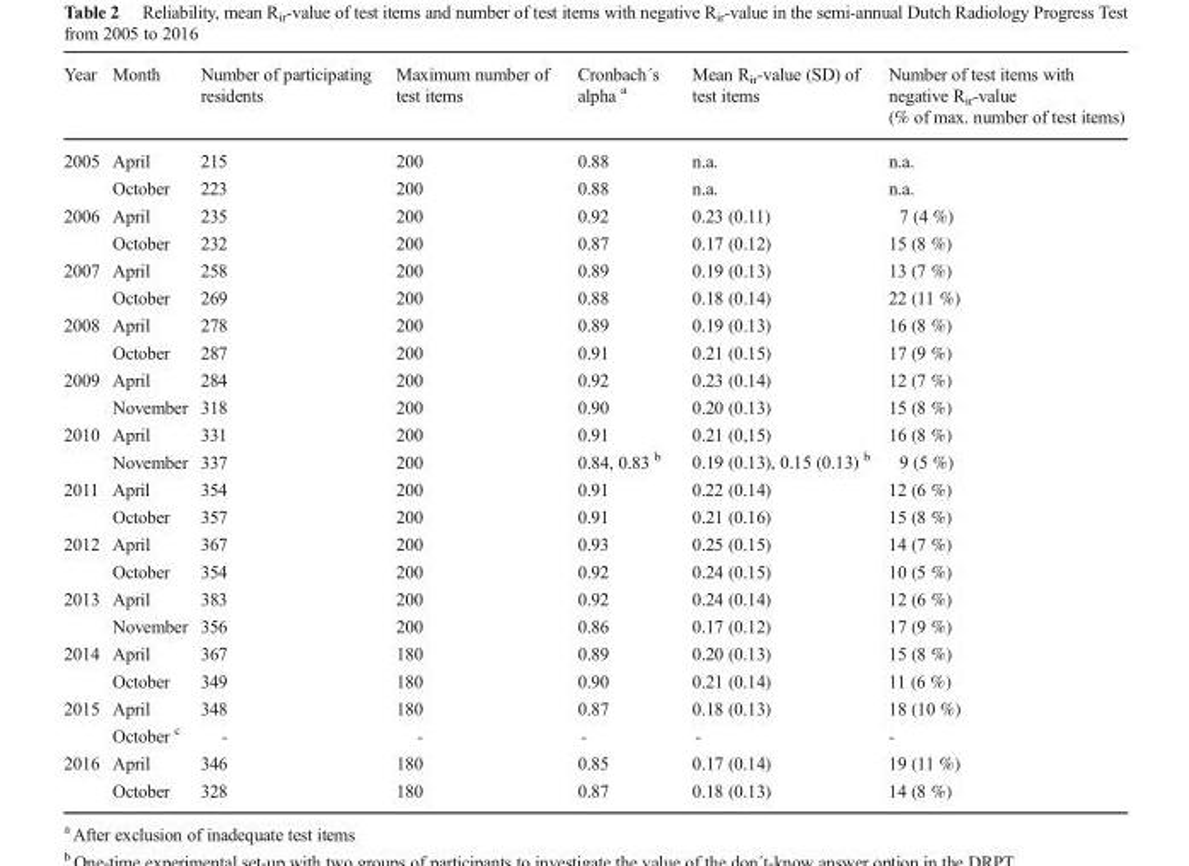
<table><thead><tr><td>Year</td><td>Month</td><td>Number of participating residents</td><td>Maximum number of test items</td><td>Cronbach´s alpha <sup>a</sup></td><td>Mean R<sub>ir</sub>-value (SD) of test items</td><td>Number of test items with negative R<sub>ir</sub>-value (% of max. number of test items)</td></tr></thead><tbody><tr><td rowspan="2">2005</td><td>April</td><td>215</td><td>200</td><td>0.88</td><td>n.a.</td><td>n.a.</td></tr><tr><td>October</td><td>223</td><td>200</td><td>0.88</td><td>n.a.</td><td>n.a.</td></tr><tr><td rowspan="2">2006</td><td>April</td><td>235</td><td>200</td><td>0.92</td><td>0.23 (0.11)</td><td>7 (4 %)</td></tr><tr><td>October</td><td>232</td><td>200</td><td>0.87</td><td>0.17 (0.12)</td><td>15 (8 %)</td></tr><tr><td rowspan="2">2007</td><td>April</td><td>258</td><td>200</td><td>0.89</td><td>0.19 (0.13)</td><td>13 (7 %)</td></tr><tr><td>October</td><td>269</td><td>200</td><td>0.88</td><td>0.18 (0.14)</td><td>22 (11 %)</td></tr><tr><td rowspan="2">2008</td><td>April</td><td>278</td><td>200</td><td>0.89</td><td>0.19 (0.13)</td><td>16 (8 %)</td></tr><tr><td>October</td><td>287</td><td>200</td><td>0.91</td><td>0.21 (0.15)</td><td>17 (9 %)</td></tr><tr><td rowspan="2">2009</td><td>April</td><td>284</td><td>200</td><td>0.92</td><td>0.23 (0.14)</td><td>12 (7 %)</td></tr><tr><td>November</td><td>318</td><td>200</td><td>0.90</td><td>0.20 (0.13)</td><td>15 (8 %)</td></tr><tr><td rowspan="2">2010</td><td>April</td><td>331</td><td>200</td><td>0.91</td><td>0.21 (0,15)</td><td>16 (8 %)</td></tr><tr><td>November</td><td>337</td><td>200</td><td>0.84, 0.83 <sup>b</sup></td><td>0.19 (0.13), 0.15 (0.13) <sup>b</sup></td><td>9 (5 %)</td></tr><tr><td rowspan="2">2011</td><td>April</td><td>354</td><td>200</td><td>0.91</td><td>0.22 (0.14)</td><td>12 (6 %)</td></tr><tr><td>October</td><td>357</td><td>200</td><td>0.91</td><td>0.21 (0.16)</td><td>15 (8 %)</td></tr><tr><td rowspan="2">2012</td><td>April</td><td>367</td><td>200</td><td>0.93</td><td>0.25 (0.15)</td><td>14 (7 %)</td></tr><tr><td>October</td><td>354</td><td>200</td><td>0.92</td><td>0.24 (0.15)</td><td>10 (5 %)</td></tr><tr><td rowspan="2">2013</td><td>April</td><td>383</td><td>200</td><td>0.92</td><td>0.24 (0.14)</td><td>12 (6 %)</td></tr><tr><td>November</td><td>356</td><td>200</td><td>0.86</td><td>0.17 (0.12)</td><td>17 (9 %)</td></tr><tr><td rowspan="2">2014</td><td>April</td><td>367</td><td>180</td><td>0.89</td><td>0.20 (0.13)</td><td>15 (8 %)</td></tr><tr><td>October</td><td>349</td><td>180</td><td>0.90</td><td>0.21 (0.14)</td><td>11 (6 %)</td></tr><tr><td rowspan="2">2015</td><td>April</td><td>348</td><td>180</td><td>0.87</td><td>0.18 (0.13)</td><td>18 (10 %)</td></tr><tr><td>October <sup>c</sup></td><td>-</td><td>-</td><td>-</td><td>-</td><td>-</td></tr><tr><td rowspan="2">2016</td><td>April</td><td>346</td><td>180</td><td>0.85</td><td>0.17 (0.14)</td><td>19 (11 %)</td></tr><tr><td>October</td><td>328</td><td>180</td><td>0.87</td><td>0.18 (0.13)</td><td>14 (8 %)</td></tr></tbody></table>